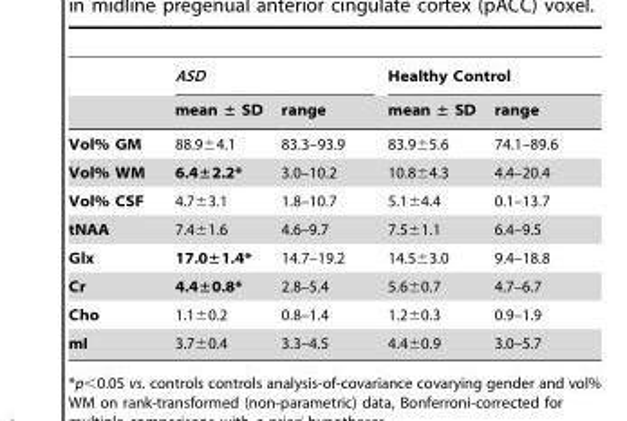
<table><thead><tr><td rowspan="2"></td><td colspan="2">ASD</td><td colspan="2">Healthy Control</td></tr><tr><td>mean ± SD</td><td>range</td><td>mean ± SD</td><td>range</td></tr></thead><tbody><tr><td>Vol% GM</td><td>88.9±4.1</td><td>83.3–93.9</td><td>83.9±5.6</td><td>74.1–89.6</td></tr><tr><td>Vol% WM</td><td>6.4±2.2*</td><td>3.0–10.2</td><td>10.8±4.3</td><td>4.4–20.4</td></tr><tr><td>Vol% CSF</td><td>4.7±3.1</td><td>1.8–10.7</td><td>5.1±4.4</td><td>0.1–13.7</td></tr><tr><td>tNAA</td><td>7.4±1.6</td><td>4.6–9.7</td><td>7.5±1.1</td><td>6.4–9.5</td></tr><tr><td>Glx</td><td>17.0±1.4*</td><td>14.7–19.2</td><td>14.5±3.0</td><td>9.4–18.8</td></tr><tr><td>Cr</td><td>4.4±0.8*</td><td>2.8–5.4</td><td>5.6±0.7</td><td>4.7–6.7</td></tr><tr><td>Cho</td><td>1.1±0.2</td><td>0.8–1.4</td><td>1.2±0.3</td><td>0.9–1.9</td></tr><tr><td>mI</td><td>3.7±0.4</td><td>3.3–4.5</td><td>4.4±0.9</td><td>3.0–5.7</td></tr></tbody></table>